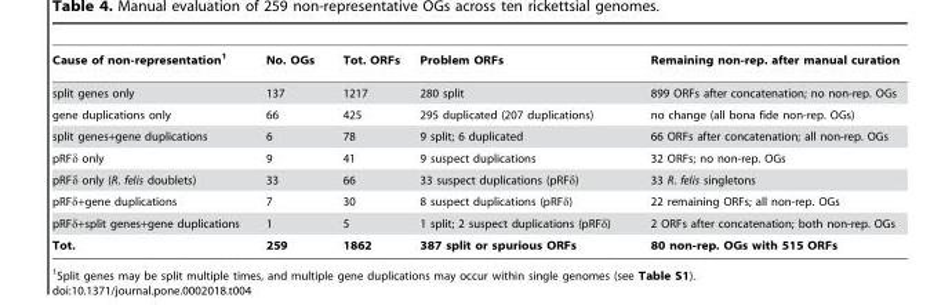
<table><thead><tr><td>Cause of non-representation<sup>1</sup></td><td>No. OGs</td><td>Tot. ORFs</td><td>Problem ORFs</td><td>Remaining non-rep. after manual curation</td></tr></thead><tbody><tr><td>split genes only</td><td>137</td><td>1217</td><td>280 split</td><td>899 ORFs after concatenation; no non-rep. OGs</td></tr><tr><td>gene duplications only</td><td>66</td><td>425</td><td>295 duplicated (207 duplications)</td><td>no change (all bona fide non-rep. OGs)</td></tr><tr><td>split genes+gene duplications</td><td>6</td><td>78</td><td>9 split; 6 duplicated</td><td>66 ORFs after concatenation; all non-rep. OGs</td></tr><tr><td>pRFδ only</td><td>9</td><td>41</td><td>9 suspect duplications</td><td>32 ORFs; no non-rep. OGs</td></tr><tr><td>pRFδ only (R. felis doublets)</td><td>33</td><td>66</td><td>33 suspect duplications (pRFδ)</td><td>33 R. felis singletons</td></tr><tr><td>pRFδ+gene duplications</td><td>7</td><td>30</td><td>8 suspect duplications (pRFδ)</td><td>22 remaining ORFs; all non-rep. OGs</td></tr><tr><td>pRFδ+split genes+gene duplications</td><td>1</td><td>5</td><td>1 split; 2 suspect duplications (pRFδ)</td><td>2 ORFs after concatenation; both non-rep. OGs</td></tr><tr><td>Tot.</td><td>259</td><td>1862</td><td>387 split or spurious ORFs</td><td>80 non-rep. OGs with 515 ORFs</td></tr></tbody></table>